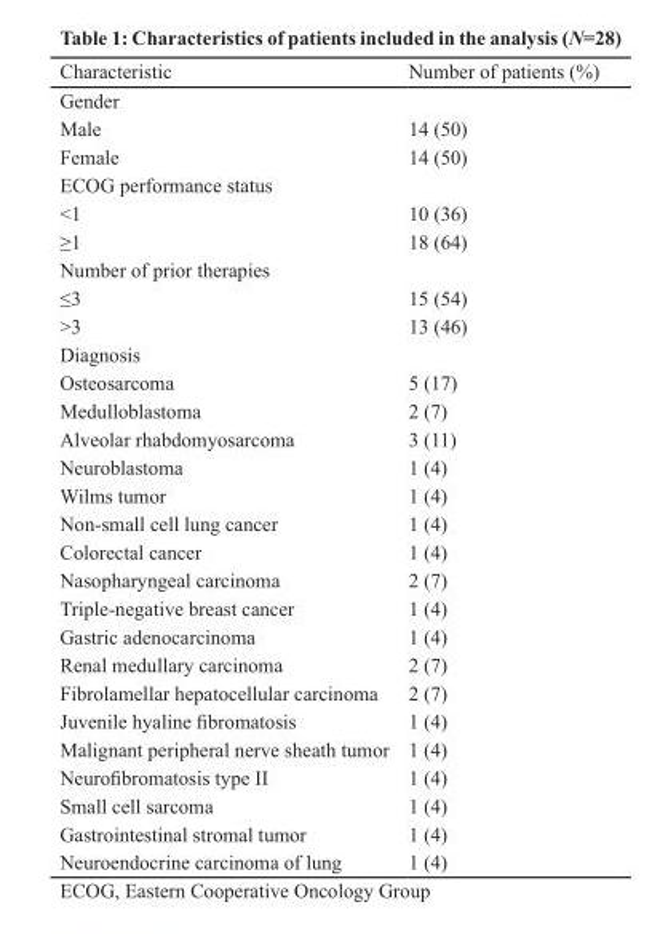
<table><thead><tr><td>Characteristic</td><td>Number of patients (%)</td></tr></thead><tbody><tr><td colspan="2">Gender</td></tr><tr><td>Male</td><td>14 (50)</td></tr><tr><td>Female</td><td>14 (50)</td></tr><tr><td colspan="2">ECOG performance status</td></tr><tr><td>&lt;1</td><td>10 (36)</td></tr><tr><td>≥1</td><td>18 (64)</td></tr><tr><td colspan="2">Number of prior therapies</td></tr><tr><td>≤3</td><td>15 (54)</td></tr><tr><td>&gt;3</td><td>13 (46)</td></tr><tr><td colspan="2">Diagnosis</td></tr><tr><td>Osteosarcoma</td><td>5 (17)</td></tr><tr><td>Medulloblastoma</td><td>2 (7)</td></tr><tr><td>Alveolar rhabdomyosarcoma</td><td>3 (11)</td></tr><tr><td>Neuroblastoma</td><td>1 (4)</td></tr><tr><td>Wilms tumor</td><td>1 (4)</td></tr><tr><td>Non-small cell lung cancer</td><td>1 (4)</td></tr><tr><td>Colorectal cancer</td><td>1 (4)</td></tr><tr><td>Nasopharyngeal carcinoma</td><td>2 (7)</td></tr><tr><td>Triple-negative breast cancer</td><td>1 (4)</td></tr><tr><td>Gastric adenocarcinoma</td><td>1 (4)</td></tr><tr><td>Renal medullary carcinoma</td><td>2 (7)</td></tr><tr><td>Fibrolamellar hepatocellular carcinoma</td><td>2 (7)</td></tr><tr><td>Juvenile hyaline fibromatosis</td><td>1 (4)</td></tr><tr><td>Malignant peripheral nerve sheath tumor</td><td>1 (4)</td></tr><tr><td>Neurofibromatosis type II</td><td>1 (4)</td></tr><tr><td>Small cell sarcoma</td><td>1 (4)</td></tr><tr><td>Gastrointestinal stromal tumor</td><td>1 (4)</td></tr><tr><td>Neuroendocrine carcinoma of lung</td><td>1 (4)</td></tr></tbody></table>